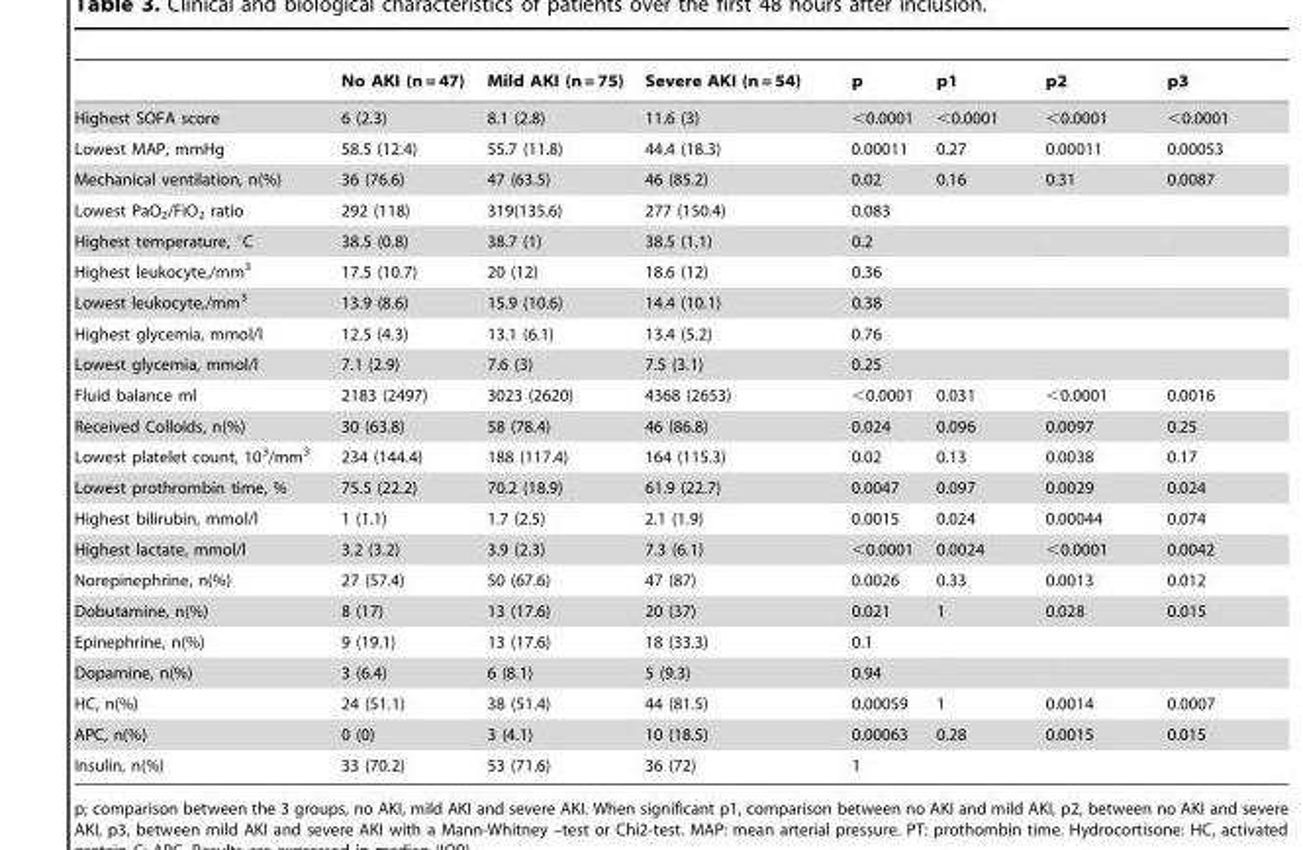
<table><thead><tr><td></td><td>No AKI (n = 47)</td><td>Mild AKI (n = 75)</td><td>Severe AKI (n = 54)</td><td>p</td><td>p1</td><td>p2</td><td>p3</td></tr></thead><tbody><tr><td>Highest SOFA score</td><td>6 (2.3)</td><td>8.1 (2.8)</td><td>11.6 (3)</td><td>&lt;0.0001</td><td>&lt;0.0001</td><td>&lt;0.0001</td><td>&lt;0.0001</td></tr><tr><td>Lowest MAP, mmHg</td><td>58.5 (12.4)</td><td>55.7 (11.8)</td><td>44.4 (18.3)</td><td>0.00011</td><td>0.27</td><td>0.00011</td><td>0.00053</td></tr><tr><td>Mechanical ventilation, n(%)</td><td>36 (76.6)</td><td>47 (63.5)</td><td>46 (85.2)</td><td>0.02</td><td>0.16</td><td>0.31</td><td>0.0087</td></tr><tr><td>Lowest PaO<sub>2</sub>/FiO<sub>2</sub> ratio</td><td>292 (118)</td><td>319(135.6)</td><td>277 (150.4)</td><td>0.083</td><td></td><td></td><td></td></tr><tr><td>Highest temperature, °C</td><td>38.5 (0.8)</td><td>38.7 (1)</td><td>38.5 (1.1)</td><td>0.2</td><td></td><td></td><td></td></tr><tr><td>Highest leukocyte,/mm<sup>3</sup></td><td>17.5 (10.7)</td><td>20 (12)</td><td>18.6 (12)</td><td>0.36</td><td></td><td></td><td></td></tr><tr><td>Lowest leukocyte,/mm<sup>3</sup></td><td>13.9 (8.6)</td><td>15.9 (10.6)</td><td>14.4 (10.1)</td><td>0.38</td><td></td><td></td><td></td></tr><tr><td>Highest glycemia, mmol/l</td><td>12.5 (4.3)</td><td>13.1 (6.1)</td><td>13.4 (5.2)</td><td>0.76</td><td></td><td></td><td></td></tr><tr><td>Lowest glycemia, mmol/l</td><td>7.1 (2.9)</td><td>7.6 (3)</td><td>7.5 (3.1)</td><td>0.25</td><td></td><td></td><td></td></tr><tr><td>Fluid balance ml</td><td>2183 (2497)</td><td>3023 (2620)</td><td>4368 (2653)</td><td>&lt;0.0001</td><td>0.031</td><td>&lt;0.0001</td><td>0.0016</td></tr><tr><td>Received Colloids, n(%)</td><td>30 (63.8)</td><td>58 (78.4)</td><td>46 (86.8)</td><td>0.024</td><td>0.096</td><td>0.0097</td><td>0.25</td></tr><tr><td>Lowest platelet count, 10<sup>3</sup>/mm<sup>3</sup></td><td>234 (144.4)</td><td>188 (117.4)</td><td>164 (115.3)</td><td>0.02</td><td>0.13</td><td>0.0038</td><td>0.17</td></tr><tr><td>Lowest prothrombin time, %</td><td>75.5 (22.2)</td><td>70.2 (18.9)</td><td>61.9 (22.7)</td><td>0.0047</td><td>0.097</td><td>0.0029</td><td>0.024</td></tr><tr><td>Highest bilirubin, mmol/l</td><td>1 (1.1)</td><td>1.7 (2.5)</td><td>2.1 (1.9)</td><td>0.0015</td><td>0.024</td><td>0.00044</td><td>0.074</td></tr><tr><td>Highest lactate, mmol/l</td><td>3.2 (3.2)</td><td>3.9 (2.3)</td><td>7.3 (6.1)</td><td>&lt;0.0001</td><td>0.0024</td><td>&lt;0.0001</td><td>0.0042</td></tr><tr><td>Norepinephrine, n(%)</td><td>27 (57.4)</td><td>50 (67.6)</td><td>47 (87)</td><td>0.0026</td><td>0.33</td><td>0.0013</td><td>0.012</td></tr><tr><td>Dobutamine, n(%)</td><td>8 (17)</td><td>13 (17.6)</td><td>20 (37)</td><td>0.021</td><td>1</td><td>0.028</td><td>0.015</td></tr><tr><td>Epinephrine, n(%)</td><td>9 (19.1)</td><td>13 (17.6)</td><td>18 (33.3)</td><td>0.1</td><td></td><td></td><td></td></tr><tr><td>Dopamine, n(%)</td><td>3 (6.4)</td><td>6 (8.1)</td><td>5 (9.3)</td><td>0.94</td><td></td><td></td><td></td></tr><tr><td>HC, n(%)</td><td>24 (51.1)</td><td>38 (51.4)</td><td>44 (81.5)</td><td>0.00059</td><td>1</td><td>0.0014</td><td>0.0007</td></tr><tr><td>APC, n(%)</td><td>0 (0)</td><td>3 (4.1)</td><td>10 (18.5)</td><td>0.00063</td><td>0.28</td><td>0.0015</td><td>0.015</td></tr><tr><td>Insulin, n(%)</td><td>33 (70.2)</td><td>53 (71.6)</td><td>36 (72)</td><td>1</td><td></td><td></td><td></td></tr></tbody></table>